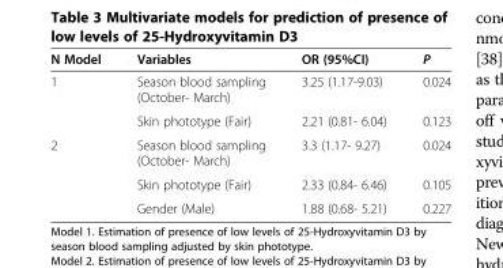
<table><thead><tr><td>N Model</td><td>Variables</td><td>OR (95%CI)</td><td>P</td></tr></thead><tbody><tr><td rowspan="2">1</td><td>Season blood sampling (October- March)</td><td>3.25 (1.17-9.03)</td><td>0.024</td></tr><tr><td>Skin phototype (Fair)</td><td>2.21 (0.81- 6.04)</td><td>0.123</td></tr><tr><td rowspan="3">2</td><td>Season blood sampling (October- March)</td><td>3.3 (1.17- 9.27)</td><td>0.024</td></tr><tr><td>Skin phototype (Fair)</td><td>2.33 (0.84- 6.46)</td><td>0.105</td></tr><tr><td>Gender (Male)</td><td>1.88 (0.68- 5.21)</td><td>0.227</td></tr></tbody></table>